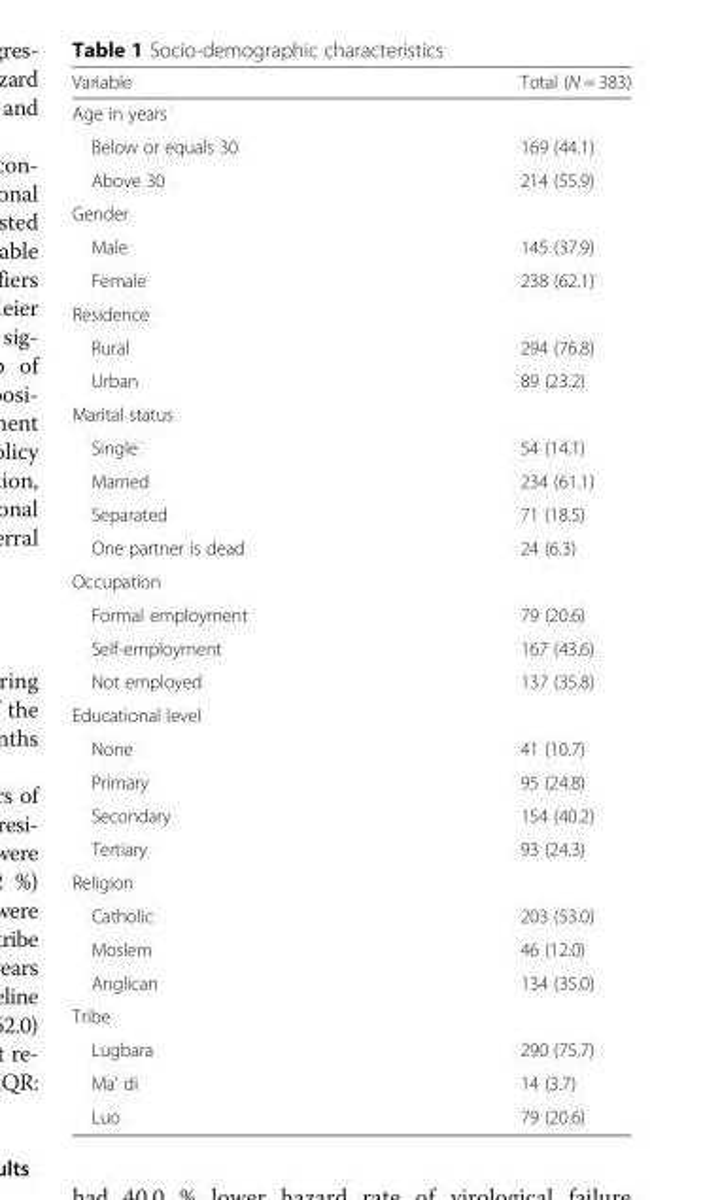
<table><thead><tr><td>Variable</td><td>Total (N = 383)</td></tr></thead><tbody><tr><td colspan="2">Age in years</td></tr><tr><td>Below or equals 30</td><td>169 (44.1)</td></tr><tr><td>Above 30</td><td>214 (55.9)</td></tr><tr><td colspan="2">Gender</td></tr><tr><td>Male</td><td>145 (37.9)</td></tr><tr><td>Female</td><td>238 (62.1)</td></tr><tr><td colspan="2">Residence</td></tr><tr><td>Rural</td><td>294 (76.8)</td></tr><tr><td>Urban</td><td>89 (23.2)</td></tr><tr><td colspan="2">Marital status</td></tr><tr><td>Single</td><td>54 (14.1)</td></tr><tr><td>Married</td><td>234 (61.1)</td></tr><tr><td>Separated</td><td>71 (18.5)</td></tr><tr><td>One partner is dead</td><td>24 (6.3)</td></tr><tr><td colspan="2">Occupation</td></tr><tr><td>Formal employment</td><td>79 (20.6)</td></tr><tr><td>Self-employment</td><td>167 (43.6)</td></tr><tr><td>Not employed</td><td>137 (35.8)</td></tr><tr><td colspan="2">Educational level</td></tr><tr><td>None</td><td>41 (10.7)</td></tr><tr><td>Primary</td><td>95 (24.8)</td></tr><tr><td>Secondary</td><td>154 (40.2)</td></tr><tr><td>Tertiary</td><td>93 (24.3)</td></tr><tr><td colspan="2">Religion</td></tr><tr><td>Catholic</td><td>203 (53.0)</td></tr><tr><td>Moslem</td><td>46 (12.0)</td></tr><tr><td>Anglican</td><td>134 (35.0)</td></tr><tr><td colspan="2">Tribe</td></tr><tr><td>Lugbara</td><td>290 (75.7)</td></tr><tr><td>Ma’ di</td><td>14 (3.7)</td></tr><tr><td>Luo</td><td>79 (20.6)</td></tr></tbody></table>